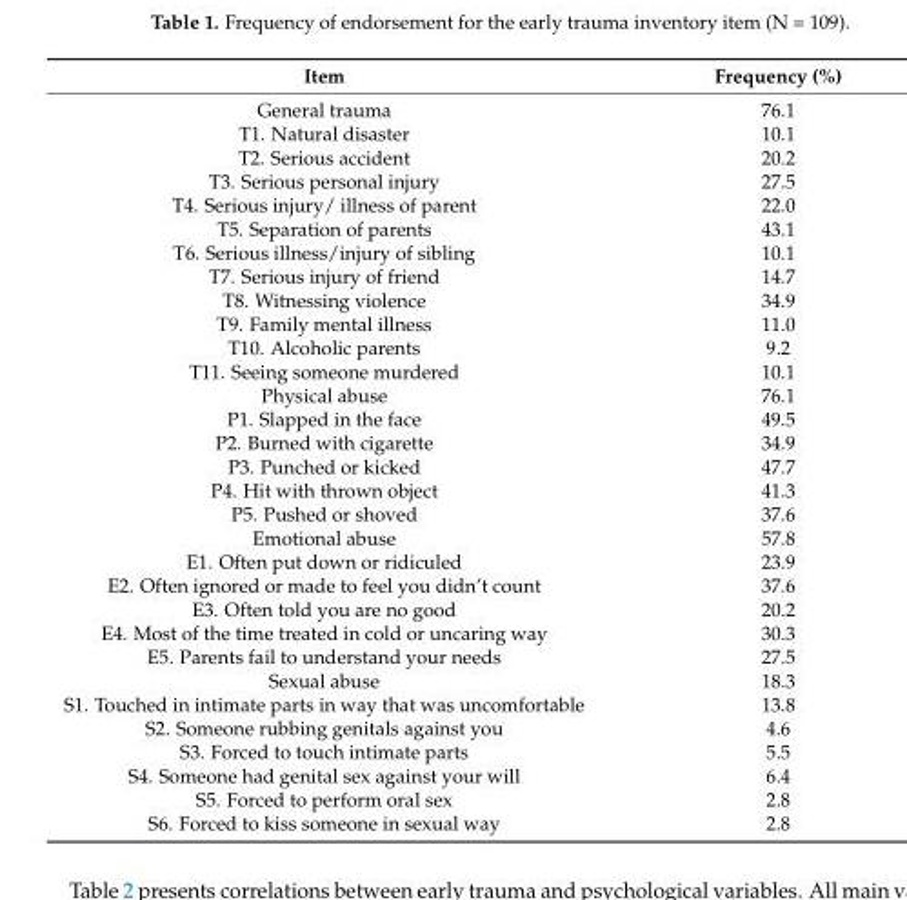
<table><thead><tr><td>Item</td><td>Frequency (%)</td></tr></thead><tbody><tr><td>General trauma</td><td>76.1</td></tr><tr><td>T1. Natural disaster</td><td>10.1</td></tr><tr><td>T2. Serious accident</td><td>20.2</td></tr><tr><td>T3. Serious personal injury</td><td>27.5</td></tr><tr><td>T4. Serious injury/ illness of parent</td><td>22.0</td></tr><tr><td>T5. Separation of parents</td><td>43.1</td></tr><tr><td>T6. Serious illness/injury of sibling</td><td>10.1</td></tr><tr><td>T7. Serious injury of friend</td><td>14.7</td></tr><tr><td>T8. Witnessing violence</td><td>34.9</td></tr><tr><td>T9. Family mental illness</td><td>11.0</td></tr><tr><td>T10. Alcoholic parents</td><td>9.2</td></tr><tr><td>T11. Seeing someone murdered</td><td>10.1</td></tr><tr><td>Physical abuse</td><td>76.1</td></tr><tr><td>P1. Slapped in the face</td><td>49.5</td></tr><tr><td>P2. Burned with cigarette</td><td>34.9</td></tr><tr><td>P3. Punched or kicked</td><td>47.7</td></tr><tr><td>P4. Hit with thrown object</td><td>41.3</td></tr><tr><td>P5. Pushed or shoved</td><td>37.6</td></tr><tr><td>Emotional abuse</td><td>57.8</td></tr><tr><td>E1. Often put down or ridiculed</td><td>23.9</td></tr><tr><td>E2. Often ignored or made to feel you didn’t count</td><td>37.6</td></tr><tr><td>E3. Often told you are no good</td><td>20.2</td></tr><tr><td>E4. Most of the time treated in cold or uncaring way</td><td>30.3</td></tr><tr><td>E5. Parents fail to understand your needs</td><td>27.5</td></tr><tr><td>Sexual abuse</td><td>18.3</td></tr><tr><td>S1. Touched in intimate parts in way that was uncomfortable</td><td>13.8</td></tr><tr><td>S2. Someone rubbing genitals against you</td><td>4.6</td></tr><tr><td>S3. Forced to touch intimate parts</td><td>5.5</td></tr><tr><td>S4. Someone had genital sex against your will</td><td>6.4</td></tr><tr><td>S5. Forced to perform oral sex</td><td>2.8</td></tr><tr><td>S6. Forced to kiss someone in sexual way</td><td>2.8</td></tr></tbody></table>